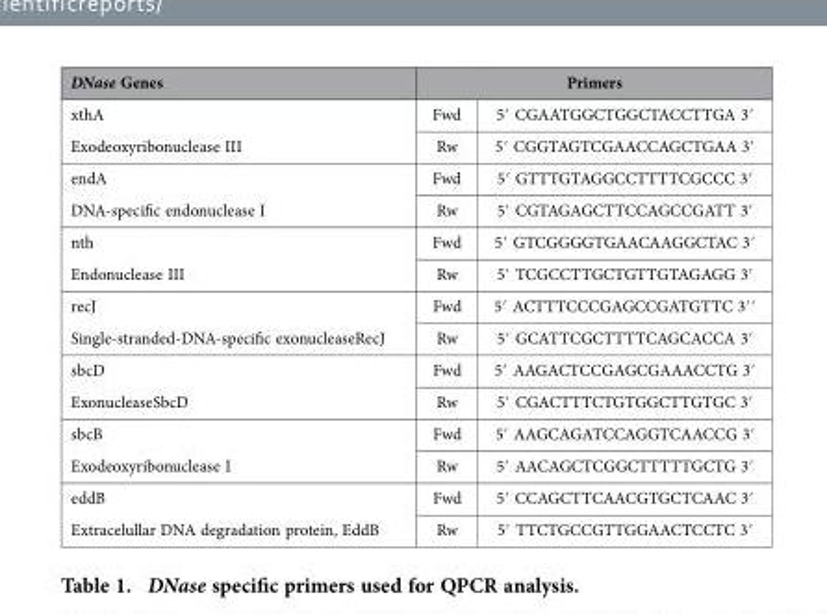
<table><thead><tr><td rowspan="2">DNase Genes xthA</td><td colspan="2">Primers</td></tr><tr><td>Fwd</td><td>5′ CGAATGGCTGGCTACCTTGA 3′</td></tr></thead><tbody><tr><td>Exodeoxyribonuclease III</td><td>Rw</td><td>5′ CGGTAGTCGAACCAGCTGAA 3′</td></tr><tr><td>endA</td><td>Fwd</td><td>5′ GTTTGTAGGCCTTTTCGCCC 3′</td></tr><tr><td>DNA-specific endonuclease I</td><td>Rw</td><td>5′ CGTAGAGCTTCCAGCCGATT 3′</td></tr><tr><td>nth</td><td>Fwd</td><td>5′ GTCGGGGTGAACAAGGCTAC 3′</td></tr><tr><td>Endonuclease III</td><td>Rw</td><td>5′ TCGCCTTGCTGTTGTAGAGG 3′</td></tr><tr><td>recJ</td><td>Fwd</td><td>5′ ACTTTCCCGAGCCGATGTTC 3′ ′</td></tr><tr><td>Single-stranded-DNA-specific exonucleaseRecJ</td><td>Rw</td><td>5′ GCATTCGCTTTTCAGCACCA 3′</td></tr><tr><td>sbcD</td><td>Fwd</td><td>5′ AAGACTCCGAGCGAAACCTG 3′</td></tr><tr><td>ExonucleaseSbcD</td><td>Rw</td><td>5′ CGACTTTCTGTGGCTTGTGC 3′</td></tr><tr><td>sbcB</td><td>Fwd</td><td>5′ AAGCAGATCCAGGTCAACCG 3′</td></tr><tr><td>Exodeoxyribonuclease I</td><td>Rw</td><td>5′ AACAGCTCGGCTTTTTGCTG 3′</td></tr><tr><td>eddB</td><td>Fwd</td><td>5′ CCAGCTTCAACGTGCTCAAC 3′</td></tr><tr><td>Extracelullar DNA degradation protein, EddB</td><td>Rw</td><td>5′ TTCTGCCGTTGGAACTCCTC 3′</td></tr></tbody></table>